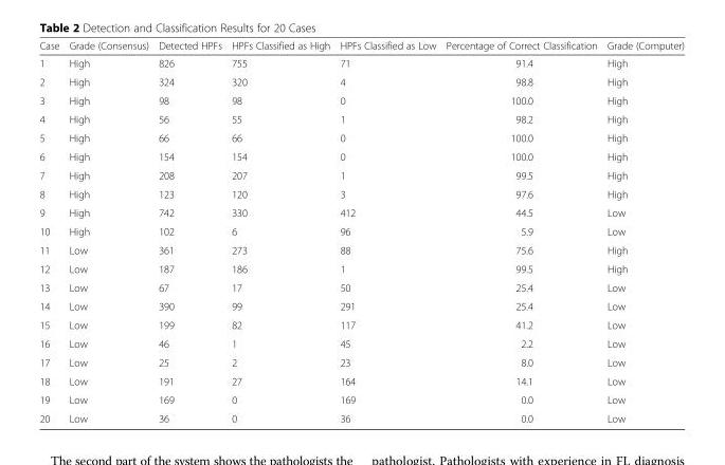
<table><thead><tr><td>Case</td><td>Grade (Consensus)</td><td>Detected HPFs</td><td>HPFs Classified as High</td><td>HPFs Classified as Low</td><td>Percentage of Correct Classification</td><td>Grade (Computer)</td></tr></thead><tbody><tr><td>1</td><td>High</td><td>826</td><td>755</td><td>71</td><td>91.4</td><td>High</td></tr><tr><td>2</td><td>High</td><td>324</td><td>320</td><td>4</td><td>98.8</td><td>High</td></tr><tr><td>3</td><td>High</td><td>98</td><td>98</td><td>0</td><td>100.0</td><td>High</td></tr><tr><td>4</td><td>High</td><td>56</td><td>55</td><td>1</td><td>98.2</td><td>High</td></tr><tr><td>5</td><td>High</td><td>66</td><td>66</td><td>0</td><td>100.0</td><td>High</td></tr><tr><td>6</td><td>High</td><td>154</td><td>154</td><td>0</td><td>100.0</td><td>High</td></tr><tr><td>7</td><td>High</td><td>208</td><td>207</td><td>1</td><td>99.5</td><td>High</td></tr><tr><td>8</td><td>High</td><td>123</td><td>120</td><td>3</td><td>97.6</td><td>High</td></tr><tr><td>9</td><td>High</td><td>742</td><td>330</td><td>412</td><td>44.5</td><td>Low</td></tr><tr><td>10</td><td>High</td><td>102</td><td>6</td><td>96</td><td>5.9</td><td>Low</td></tr><tr><td>11</td><td>Low</td><td>361</td><td>273</td><td>88</td><td>75.6</td><td>High</td></tr><tr><td>12</td><td>Low</td><td>187</td><td>186</td><td>1</td><td>99.5</td><td>High</td></tr><tr><td>13</td><td>Low</td><td>67</td><td>17</td><td>50</td><td>25.4</td><td>Low</td></tr><tr><td>14</td><td>Low</td><td>390</td><td>99</td><td>291</td><td>25.4</td><td>Low</td></tr><tr><td>15</td><td>Low</td><td>199</td><td>82</td><td>117</td><td>41.2</td><td>Low</td></tr><tr><td>16</td><td>Low</td><td>46</td><td>1</td><td>45</td><td>2.2</td><td>Low</td></tr><tr><td>17</td><td>Low</td><td>25</td><td>2</td><td>23</td><td>8.0</td><td>Low</td></tr><tr><td>18</td><td>Low</td><td>191</td><td>27</td><td>164</td><td>14.1</td><td>Low</td></tr><tr><td>19</td><td>Low</td><td>169</td><td>0</td><td>169</td><td>0.0</td><td>Low</td></tr><tr><td>20</td><td>Low</td><td>36</td><td>0</td><td>36</td><td>0.0</td><td>Low</td></tr></tbody></table>